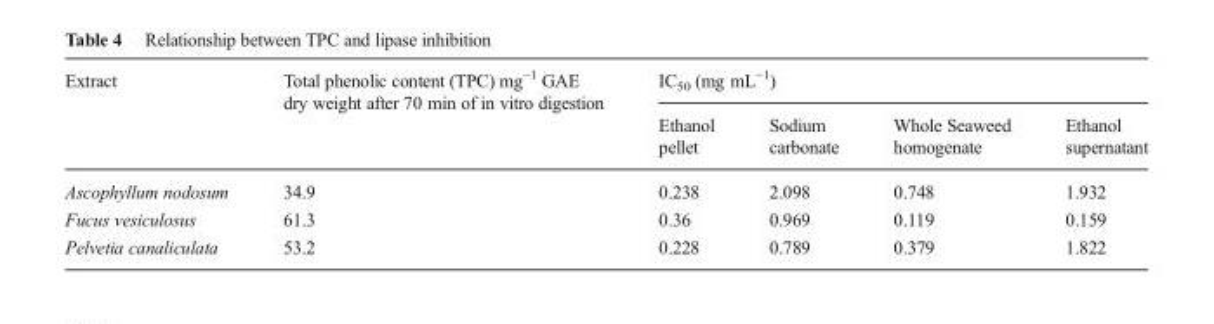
<table><thead><tr><td rowspan="2">Extract</td><td rowspan="2">Total phenolic content (TPC) mg<sup>−1</sup> GAE dry weight after 70 min of in vitro digestion</td><td colspan="4">IC<sub>50</sub> (mg mL<sup>−1</sup>)</td></tr><tr><td>Ethanol pellet</td><td>Sodium carbonate</td><td>Whole Seaweed homogenate</td><td>Ethanol supernatant</td></tr></thead><tbody><tr><td>Ascophyllum nodosum</td><td>34.9</td><td>0.238</td><td>2.098</td><td>0.748</td><td>1.932</td></tr><tr><td>Fucus vesiculosus</td><td>61.3</td><td>0.36</td><td>0.969</td><td>0.119</td><td>0.159</td></tr><tr><td>Pelvetia canaliculata</td><td>53.2</td><td>0.228</td><td>0.789</td><td>0.379</td><td>1.822</td></tr></tbody></table>